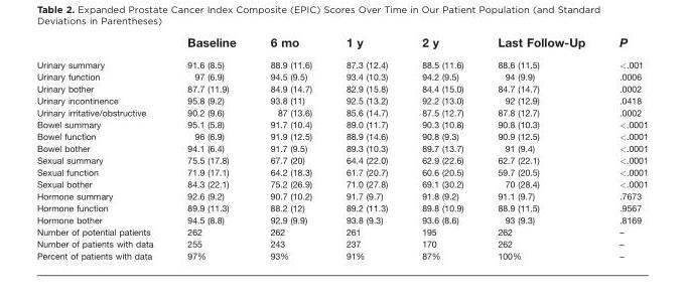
<table><thead><tr><td></td><td>Baseline</td><td>6 mo</td><td>1 y</td><td>2 y</td><td>Last Follow-Up</td><td>P</td></tr></thead><tbody><tr><td>Urinary summary</td><td>91.6 (8.5)</td><td>88.9 (11.6)</td><td>87.3 (12.4)</td><td>88.5 (11.6)</td><td>88.6 (11.5)</td><td>&lt;.001</td></tr><tr><td>Urinary function</td><td>97 (6.9)</td><td>94.5 (9.5)</td><td>93.4 (10.3)</td><td>94.2 (9.5)</td><td>94 (9.9)</td><td>.0006</td></tr><tr><td>Urinary bother</td><td>87.7 (11.9)</td><td>84.9 (14.7)</td><td>82.9 (15.8)</td><td>84.4 (15.0)</td><td>84.7 (14.7)</td><td>.0002</td></tr><tr><td>Urinary incontinence</td><td>95.8 (9.2)</td><td>93.8 (11)</td><td>92.5 (13.2)</td><td>92.2 (13.0)</td><td>92 (12.9)</td><td>.0418</td></tr><tr><td>Urinary irritative/obstructive</td><td>90.2 (9.6)</td><td>87 (13.6)</td><td>85.6 (14.7)</td><td>87.5 (12.7)</td><td>87.8 (12.7)</td><td>.0002</td></tr><tr><td>Bowel summary</td><td>95.1 (5.8)</td><td>91.7 (10.4)</td><td>89.0 (11.7)</td><td>90.3 (10.8)</td><td>90.8 (10.3)</td><td>&lt;.0001</td></tr><tr><td>Bowel function</td><td>96 (6.9)</td><td>91.9 (12.5)</td><td>88.9 (14.6)</td><td>90.8 (9.3)</td><td>90.9 (12.5)</td><td>&lt;.0001</td></tr><tr><td>Bowel bother</td><td>94.1 (6.4)</td><td>91.7 (9.5)</td><td>89.3 (10.3)</td><td>89.7 (13.7)</td><td>91 (9.4)</td><td>&lt;.0001</td></tr><tr><td>Sexual summary</td><td>75.5 (17.8)</td><td>67.7 (20)</td><td>64.4 (22.0)</td><td>62.9 (22.6)</td><td>62.7 (22.1)</td><td>&lt;.0001</td></tr><tr><td>Sexual function</td><td>71.9 (17.1)</td><td>64.2 (18.3)</td><td>61.7 (20.7)</td><td>60.6 (20.5)</td><td>59.7 (20.5)</td><td>&lt;.0001</td></tr><tr><td>Sexual bother</td><td>84.3 (22.1)</td><td>75.2 (26.9)</td><td>71.0 (27.8)</td><td>69.1 (30.2)</td><td>70 (28.4)</td><td>&lt;.0001</td></tr><tr><td>Hormone summary</td><td>92.6 (9.2)</td><td>90.7 (10.2)</td><td>91.7 (9.7)</td><td>91.8 (9.2)</td><td>91.1 (9.7)</td><td>.7673</td></tr><tr><td>Hormone function</td><td>89.9 (11.3)</td><td>88.2 (12)</td><td>89.2 (11.3)</td><td>89.8 (10.9)</td><td>88.9 (11.5)</td><td>.9567</td></tr><tr><td>Hormone bother</td><td>94.5 (8.8)</td><td>92.9 (9.9)</td><td>93.8 (9.3)</td><td>93.6 (8.6)</td><td>93 (9.3)</td><td>.8169</td></tr><tr><td>Number of potential patients</td><td>262</td><td>262</td><td>261</td><td>195</td><td>262</td><td>–</td></tr><tr><td>Number of patients with data</td><td>255</td><td>243</td><td>237</td><td>170</td><td>262</td><td>–</td></tr><tr><td>Percent of patients with data</td><td>97%</td><td>93%</td><td>91%</td><td>87%</td><td>100%</td><td>–</td></tr></tbody></table>